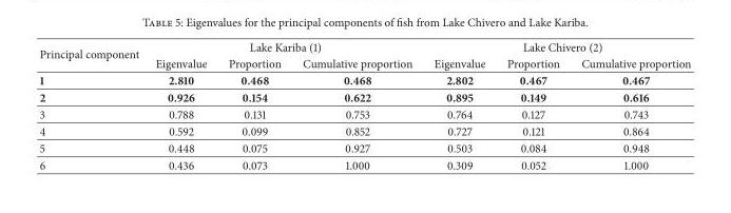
<table><thead><tr><td rowspan="2">Principal component</td><td colspan="3">Lake Kariba (1)</td><td colspan="3">Lake Chivero (2)</td></tr><tr><td>Eigenvalue</td><td>Proportion</td><td>Cumulative proportion</td><td>Eigenvalue</td><td>Proportion</td><td>Cumulative proportion</td></tr></thead><tbody><tr><td>1</td><td>2.810</td><td>0.468</td><td>0.468</td><td>2.802</td><td>0.467</td><td>0.467</td></tr><tr><td>2</td><td>0.926</td><td>0.154</td><td>0.622</td><td>0.895</td><td>0.149</td><td>0.616</td></tr><tr><td>3</td><td>0.788</td><td>0.131</td><td>0.753</td><td>0.764</td><td>0.127</td><td>0.743</td></tr><tr><td>4</td><td>0.592</td><td>0.099</td><td>0.852</td><td>0.727</td><td>0.121</td><td>0.864</td></tr><tr><td>5</td><td>0.448</td><td>0.075</td><td>0.927</td><td>0.503</td><td>0.084</td><td>0.948</td></tr><tr><td>6</td><td>0.436</td><td>0.073</td><td>1.000</td><td>0.309</td><td>0.052</td><td>1.000</td></tr></tbody></table>